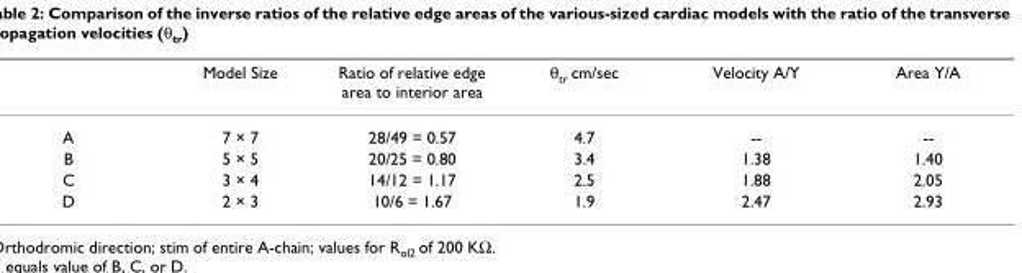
<table><thead><tr><td></td><td>Model Size</td><td>Ratio of relative edge area to interior area</td><td>θ<sub>tr</sub> cm/sec</td><td>Velocity A/Y</td><td>Area Y/A</td></tr></thead><tbody><tr><td>A</td><td>7 × 7</td><td>28/49 = 0.57</td><td>4.7</td><td>--</td><td>--</td></tr><tr><td>B</td><td>5 × 5</td><td>20/25 = 0.80</td><td>3.4</td><td>1.38</td><td>1.40</td></tr><tr><td>C</td><td>3 × 4</td><td>14/12 = 1.17</td><td>2.5</td><td>1.88</td><td>2.05</td></tr><tr><td>D</td><td>2 × 3</td><td>10/6 = 1.67</td><td>1.9</td><td>2.47</td><td>2.93</td></tr></tbody></table>